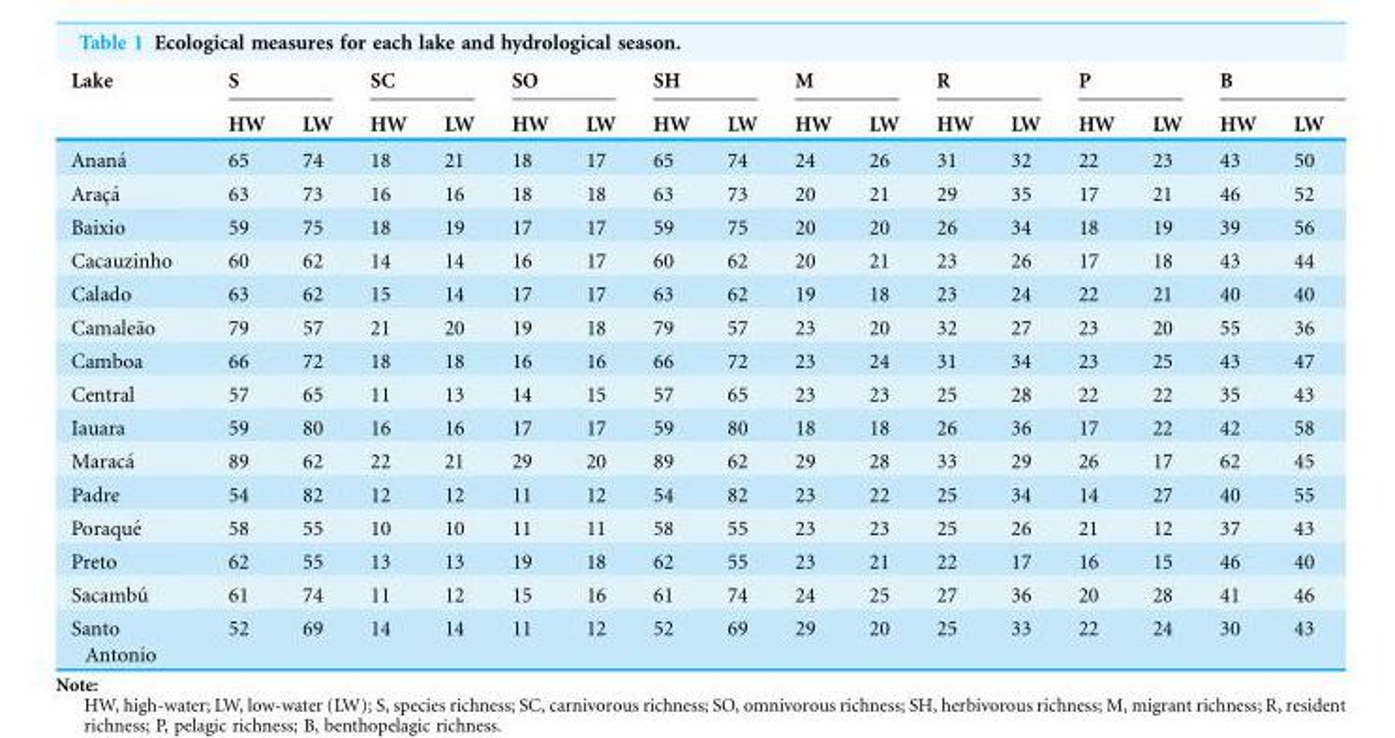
<table><thead><tr><td rowspan="2">Lake</td><td colspan="2">S</td><td colspan="2">SC</td><td colspan="2">SO</td><td colspan="2">SH</td><td colspan="2">M</td><td colspan="2">R</td><td colspan="2">P</td><td colspan="2">B</td></tr><tr><td>HW</td><td>LW</td><td>HW</td><td>LW</td><td>HW</td><td>LW</td><td>HW</td><td>LW</td><td>HW</td><td>LW</td><td>HW</td><td>LW</td><td>HW</td><td>LW</td><td>HW</td><td>LW</td></tr></thead><tbody><tr><td>Anana´</td><td>65</td><td>74</td><td>18</td><td>21</td><td>18</td><td>17</td><td>65</td><td>74</td><td>24</td><td>26</td><td>31</td><td>32</td><td>22</td><td>23</td><td>43</td><td>50</td></tr><tr><td>Arac¸a´</td><td>63</td><td>73</td><td>16</td><td>16</td><td>18</td><td>18</td><td>63</td><td>73</td><td>20</td><td>21</td><td>29</td><td>35</td><td>17</td><td>21</td><td>46</td><td>52</td></tr><tr><td>Baixio</td><td>59</td><td>75</td><td>18</td><td>19</td><td>17</td><td>17</td><td>59</td><td>75</td><td>20</td><td>20</td><td>26</td><td>34</td><td>18</td><td>19</td><td>39</td><td>56</td></tr><tr><td>Cacauzinho</td><td>60</td><td>62</td><td>14</td><td>14</td><td>16</td><td>17</td><td>60</td><td>62</td><td>20</td><td>21</td><td>23</td><td>26</td><td>17</td><td>18</td><td>43</td><td>44</td></tr><tr><td>Calado</td><td>63</td><td>62</td><td>15</td><td>14</td><td>17</td><td>17</td><td>63</td><td>62</td><td>19</td><td>18</td><td>23</td><td>24</td><td>22</td><td>21</td><td>40</td><td>40</td></tr><tr><td>Camalea˜o</td><td>79</td><td>57</td><td>21</td><td>20</td><td>19</td><td>18</td><td>79</td><td>57</td><td>23</td><td>20</td><td>32</td><td>27</td><td>23</td><td>20</td><td>55</td><td>36</td></tr><tr><td>Camboa</td><td>66</td><td>72</td><td>18</td><td>18</td><td>16</td><td>16</td><td>66</td><td>72</td><td>23</td><td>24</td><td>31</td><td>34</td><td>23</td><td>25</td><td>43</td><td>47</td></tr><tr><td>Central</td><td>57</td><td>65</td><td>11</td><td>13</td><td>14</td><td>15</td><td>57</td><td>65</td><td>23</td><td>23</td><td>25</td><td>28</td><td>22</td><td>22</td><td>35</td><td>43</td></tr><tr><td>Iauara</td><td>59</td><td>80</td><td>16</td><td>16</td><td>17</td><td>17</td><td>59</td><td>80</td><td>18</td><td>18</td><td>26</td><td>36</td><td>17</td><td>22</td><td>42</td><td>58</td></tr><tr><td>Maraca´</td><td>89</td><td>62</td><td>22</td><td>21</td><td>29</td><td>20</td><td>89</td><td>62</td><td>29</td><td>28</td><td>33</td><td>29</td><td>26</td><td>17</td><td>62</td><td>45</td></tr><tr><td>Padre</td><td>54</td><td>82</td><td>12</td><td>12</td><td>11</td><td>12</td><td>54</td><td>82</td><td>23</td><td>22</td><td>25</td><td>34</td><td>14</td><td>27</td><td>40</td><td>55</td></tr><tr><td>Poraque´</td><td>58</td><td>55</td><td>10</td><td>10</td><td>11</td><td>11</td><td>58</td><td>55</td><td>23</td><td>23</td><td>25</td><td>26</td><td>21</td><td>12</td><td>37</td><td>43</td></tr><tr><td>Preto</td><td>62</td><td>55</td><td>13</td><td>13</td><td>19</td><td>18</td><td>62</td><td>55</td><td>23</td><td>21</td><td>22</td><td>17</td><td>16</td><td>15</td><td>46</td><td>40</td></tr><tr><td>Sacambu´</td><td>61</td><td>74</td><td>11</td><td>12</td><td>15</td><td>16</td><td>61</td><td>74</td><td>24</td><td>25</td><td>27</td><td>36</td><td>20</td><td>28</td><td>41</td><td>46</td></tr><tr><td>Santo Antonio</td><td>52</td><td>69</td><td>14</td><td>14</td><td>11</td><td>12</td><td>52</td><td>69</td><td>29</td><td>20</td><td>25</td><td>33</td><td>22</td><td>24</td><td>30</td><td>43</td></tr></tbody></table>